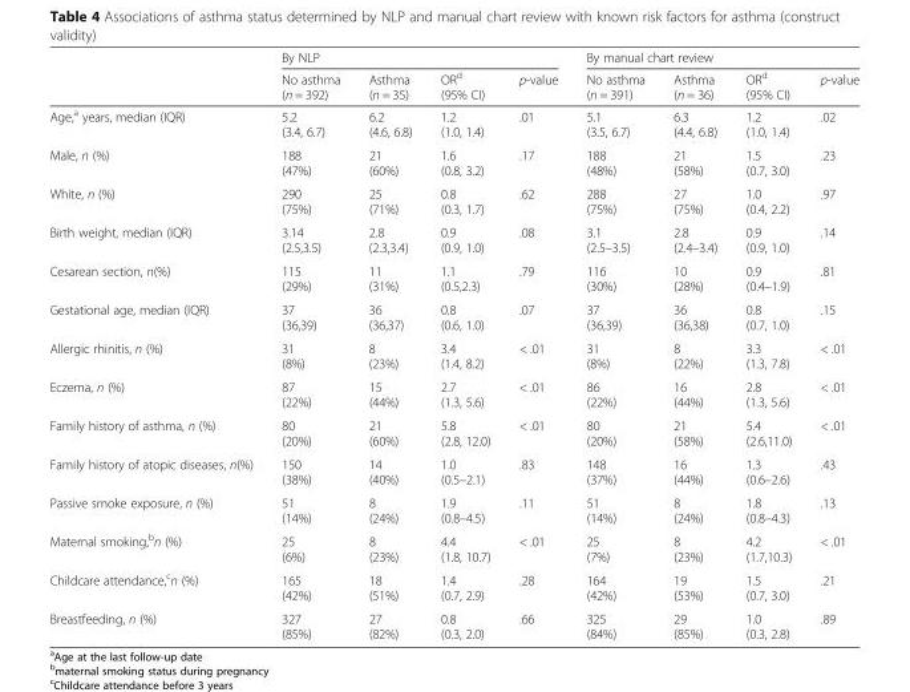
<table><thead><tr><td rowspan="2"></td><td colspan="4">By NLP</td><td colspan="4">By manual chart review</td></tr><tr><td>No asthma (n = 392)</td><td>Asthma (n = 35)</td><td>OR<sup>d</sup> (95% CI)</td><td>p-value</td><td>No asthma (n = 391)</td><td>Asthma (n = 36)</td><td>OR<sup>d</sup> (95% CI)</td><td>p-value</td></tr></thead><tbody><tr><td>Age,<sup>a</sup> years, median (IQR)</td><td>5.2 (3.4, 6.7)</td><td>6.2 (4.6, 6.8)</td><td>1.2 (1.0, 1.4)</td><td>.01</td><td>5.1 (3.5, 6.7)</td><td>6.3 (4.4, 6.8)</td><td>1.2 (1.0, 1.4)</td><td>.02</td></tr><tr><td>Male, n (%)</td><td>188 (47%)</td><td>21 (60%)</td><td>1.6 (0.8, 3.2)</td><td>.17</td><td>188 (48%)</td><td>21 (58%)</td><td>1.5 (0.7, 3.0)</td><td>.23</td></tr><tr><td>White, n (%)</td><td>290 (75%)</td><td>25 (71%)</td><td>0.8 (0.3, 1.7)</td><td>.62</td><td>288 (75%)</td><td>27 (75%)</td><td>1.0 (0.4, 2.2)</td><td>.97</td></tr><tr><td>Birth weight, median (IQR)</td><td>3.14 (2.5,3.5)</td><td>2.8 (2.3,3.4)</td><td>0.9 (0.9, 1.0)</td><td>.08</td><td>3.1 (2.5–3.5)</td><td>2.8 (2.4–3.4)</td><td>0.9 (0.9, 1.0)</td><td>.14</td></tr><tr><td>Cesarean section, n(%)</td><td>115 (29%)</td><td>11 (31%)</td><td>1.1 (0.5,2.3)</td><td>.79</td><td>116 (30%)</td><td>10 (28%)</td><td>0.9 (0.4–1.9)</td><td>.81</td></tr><tr><td>Gestational age, median (IQR)</td><td>37 (36,39)</td><td>36 (36,37)</td><td>0.8 (0.6, 1.0)</td><td>.07</td><td>37 (36,39)</td><td>36 (36,38)</td><td>0.8 (0.7, 1.0)</td><td>.15</td></tr><tr><td>Allergic rhinitis, n (%)</td><td>31 (8%)</td><td>8 (23%)</td><td>3.4 (1.4, 8.2)</td><td>&lt; .01</td><td>31 (8%)</td><td>8 (22%)</td><td>3.3 (1.3, 7.8)</td><td>&lt; .01</td></tr><tr><td>Eczema, n (%)</td><td>87 (22%)</td><td>15 (44%)</td><td>2.7 (1.3, 5.6)</td><td>&lt; .01</td><td>86 (22%)</td><td>16 (44%)</td><td>2.8 (1.3, 5.6)</td><td>&lt; .01</td></tr><tr><td>Family history of asthma, n (%)</td><td>80 (20%)</td><td>21 (60%)</td><td>5.8 (2.8, 12.0)</td><td>&lt; .01</td><td>80 (20%)</td><td>21 (58%)</td><td>5.4 (2.6,11.0)</td><td>&lt; .01</td></tr><tr><td>Family history of atopic diseases, n(%)</td><td>150 (38%)</td><td>14 (40%)</td><td>1.0 (0.5–2.1)</td><td>.83</td><td>148 (37%)</td><td>16 (44%)</td><td>1.3 (0.6–2.6)</td><td>.43</td></tr><tr><td>Passive smoke exposure, n (%)</td><td>51 (14%)</td><td>8 (24%)</td><td>1.9 (0.8–4.5)</td><td>.11</td><td>51 (14%)</td><td>8 (24%)</td><td>1.8 (0.8–4.3)</td><td>.13</td></tr><tr><td>Maternal smoking,<sup>b</sup>n (%)</td><td>25 (6%)</td><td>8 (23%)</td><td>4.4 (1.8, 10.7)</td><td>&lt; .01</td><td>25 (7%)</td><td>8 (23%)</td><td>4.2 (1.7,10.3)</td><td>&lt; .01</td></tr><tr><td>Childcare attendance,<sup>c</sup>n (%)</td><td>165 (42%)</td><td>18 (51%)</td><td>1.4 (0.7, 2.9)</td><td>.28</td><td>164 (42%)</td><td>19 (53%)</td><td>1.5 (0.7, 3.0)</td><td>.21</td></tr><tr><td>Breastfeeding, n (%)</td><td>327 (85%)</td><td>27 (82%)</td><td>0.8 (0.3, 2.0)</td><td>.66</td><td>325 (84%)</td><td>29 (85%)</td><td>1.0 (0.3, 2.8)</td><td>.89</td></tr></tbody></table>